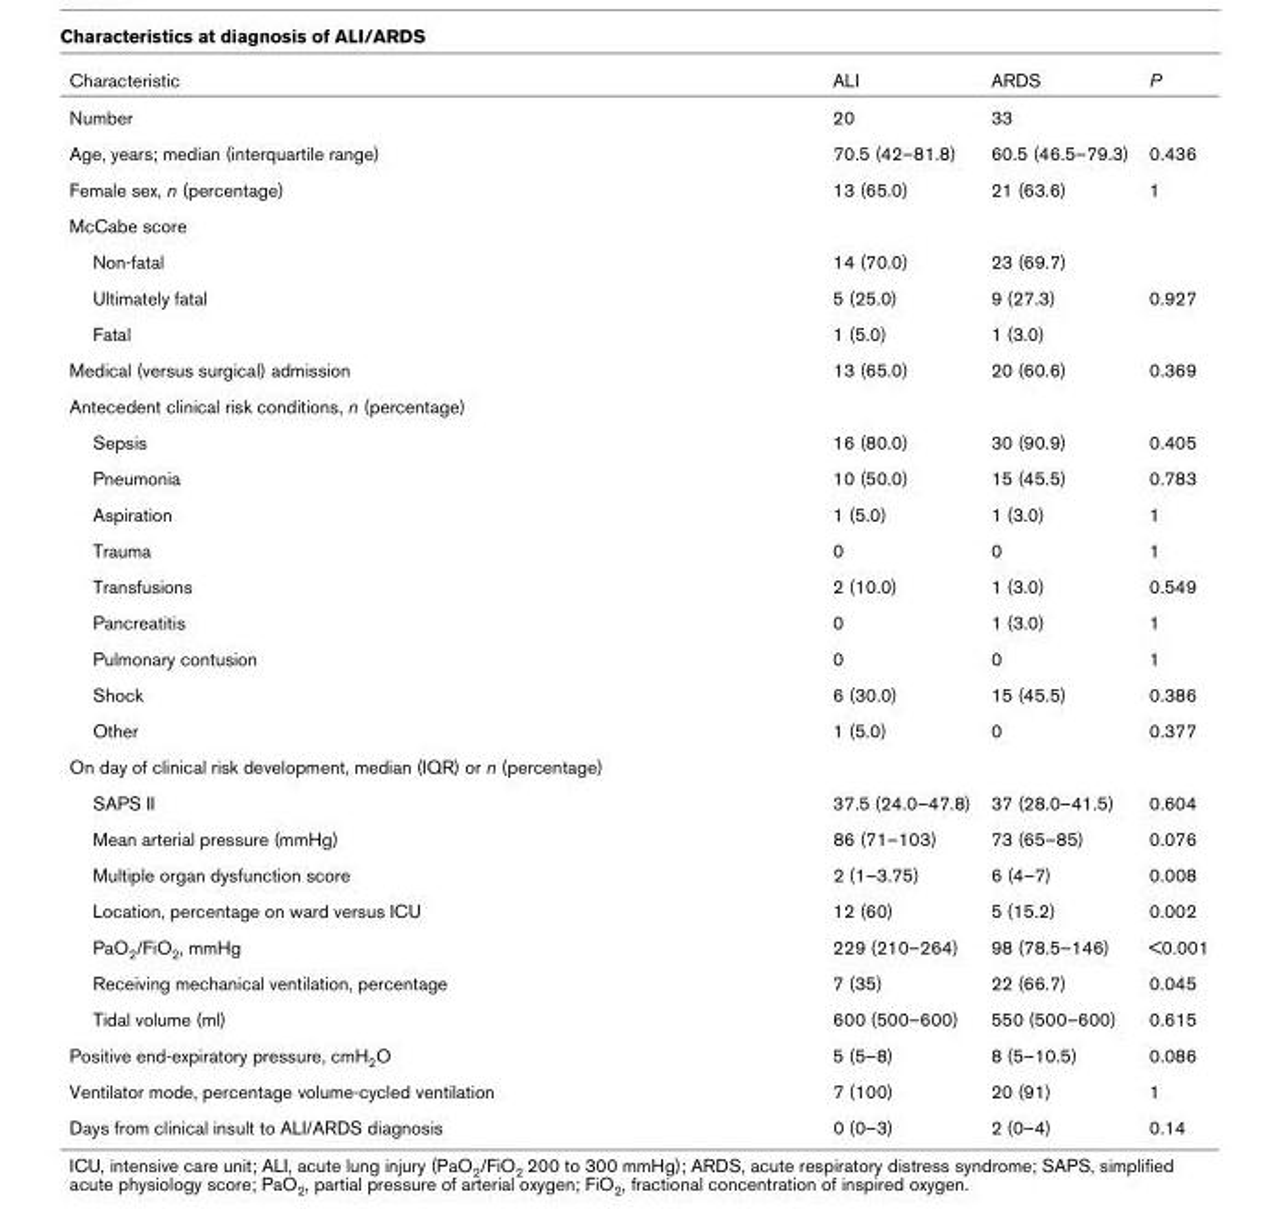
<table><thead><tr><td>Characteristic</td><td>ALI</td><td>ARDS</td><td>P</td></tr></thead><tbody><tr><td>Number</td><td>20</td><td>33</td><td></td></tr><tr><td>Age, years; median (interquartile range)</td><td>70.5 (42–81.8)</td><td>60.5 (46.5–79.3)</td><td>0.436</td></tr><tr><td>Female sex, n (percentage)</td><td>13 (65.0)</td><td>21 (63.6)</td><td>1</td></tr><tr><td colspan="4">McCabe score</td></tr><tr><td>Non-fatal</td><td>14 (70.0)</td><td>23 (69.7)</td><td></td></tr><tr><td>Ultimately fatal</td><td>5 (25.0)</td><td>9 (27.3)</td><td>0.927</td></tr><tr><td>Fatal</td><td>1 (5.0)</td><td>1 (3.0)</td><td></td></tr><tr><td>Medical (versus surgical) admission</td><td>13 (65.0)</td><td>20 (60.6)</td><td>0.369</td></tr><tr><td colspan="4">Antecedent clinical risk conditions, n (percentage)</td></tr><tr><td>Sepsis</td><td>16 (80.0)</td><td>30 (90.9)</td><td>0.405</td></tr><tr><td>Pneumonia</td><td>10 (50.0)</td><td>15 (45.5)</td><td>0.783</td></tr><tr><td>Aspiration</td><td>1 (5.0)</td><td>1 (3.0)</td><td>1</td></tr><tr><td>Trauma</td><td>0</td><td>0</td><td>1</td></tr><tr><td>Transfusions</td><td>2 (10.0)</td><td>1 (3.0)</td><td>0.549</td></tr><tr><td>Pancreatitis</td><td>0</td><td>1 (3.0)</td><td>1</td></tr><tr><td>Pulmonary contusion</td><td>0</td><td>0</td><td>1</td></tr><tr><td>Shock</td><td>6 (30.0)</td><td>15 (45.5)</td><td>0.386</td></tr><tr><td>Other</td><td>1 (5.0)</td><td>0</td><td>0.377</td></tr><tr><td colspan="4">On day of clinical risk development, median (IQR) or n (percentage)</td></tr><tr><td>SAPS II</td><td>37.5 (24.0–47.8)</td><td>37 (28.0–41.5)</td><td>0.604</td></tr><tr><td>Mean arterial pressure (mmHg)</td><td>86 (71–103)</td><td>73 (65–85)</td><td>0.076</td></tr><tr><td>Multiple organ dysfunction score</td><td>2 (1–3.75)</td><td>6 (4–7)</td><td>0.008</td></tr><tr><td>Location, percentage on ward versus ICU</td><td>12 (60)</td><td>5 (15.2)</td><td>0.002</td></tr><tr><td>PaO<sub>2</sub>/FiO<sub>2</sub>, mmHg</td><td>229 (210–264)</td><td>98 (78.5–146)</td><td>&lt;0.001</td></tr><tr><td>Receiving mechanical ventilation, percentage</td><td>7 (35)</td><td>22 (66.7)</td><td>0.045</td></tr><tr><td>Tidal volume (ml)</td><td>600 (500–600)</td><td>550 (500–600)</td><td>0.615</td></tr><tr><td>Positive end-expiratory pressure, cmH<sub>2</sub>O</td><td>5 (5–8)</td><td>8 (5–10.5)</td><td>0.086</td></tr><tr><td>Ventilator mode, percentage volume-cycled ventilation</td><td>7 (100)</td><td>20 (91)</td><td>1</td></tr><tr><td>Days from clinical insult to ALI/ARDS diagnosis</td><td>0 (0–3)</td><td>2 (0–4)</td><td>0.14</td></tr></tbody></table>